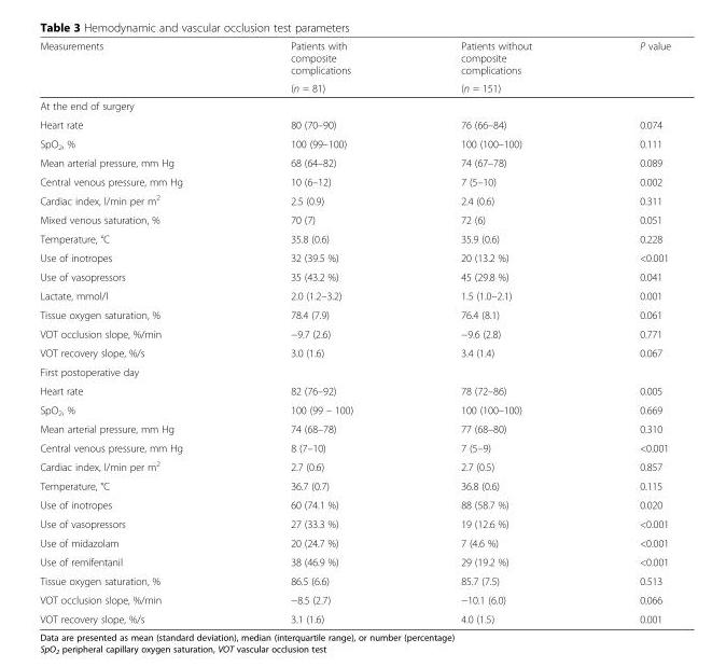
<table><thead><tr><td rowspan="2">Measurements</td><td rowspan="2">Patients with composite complications (n = 81)</td><td rowspan="2">Patients without composite complications (n = 151)</td><td rowspan="2">P value</td></tr><tr></tr></thead><tbody><tr><td colspan="4">At the end of surgery</td></tr><tr><td>Heart rate</td><td>80 (70–90)</td><td>76 (66–84)</td><td>0.074</td></tr><tr><td>SpO<sub>2</sub>, %</td><td>100 (99–100)</td><td>100 (100–100)</td><td>0.111</td></tr><tr><td>Mean arterial pressure, mm Hg</td><td>68 (64–82)</td><td>74 (67–78)</td><td>0.089</td></tr><tr><td>Central venous pressure, mm Hg</td><td>10 (6–12)</td><td>7 (5–10)</td><td>0.002</td></tr><tr><td>Cardiac index, l/min per m<sup>2</sup></td><td>2.5 (0.9)</td><td>2.4 (0.6)</td><td>0.311</td></tr><tr><td>Mixed venous saturation, %</td><td>70 (7)</td><td>72 (6)</td><td>0.051</td></tr><tr><td>Temperature, °C</td><td>35.8 (0.6)</td><td>35.9 (0.6)</td><td>0.228</td></tr><tr><td>Use of inotropes</td><td>32 (39.5 %)</td><td>20 (13.2 %)</td><td>&lt;0.001</td></tr><tr><td>Use of vasopressors</td><td>35 (43.2 %)</td><td>45 (29.8 %)</td><td>0.041</td></tr><tr><td>Lactate, mmol/l</td><td>2.0 (1.2–3.2)</td><td>1.5 (1.0–2.1)</td><td>0.001</td></tr><tr><td>Tissue oxygen saturation, %</td><td>78.4 (7.9)</td><td>76.4 (8.1)</td><td>0.061</td></tr><tr><td>VOT occlusion slope, %/min</td><td>−9.7 (2.6)</td><td>−9.6 (2.8)</td><td>0.771</td></tr><tr><td>VOT recovery slope, %/s</td><td>3.0 (1.6)</td><td>3.4 (1.4)</td><td>0.067</td></tr><tr><td colspan="4">First postoperative day</td></tr><tr><td>Heart rate</td><td>82 (76–92)</td><td>78 (72–86)</td><td>0.005</td></tr><tr><td>SpO<sub>2</sub>, %</td><td>100 (99 – 100)</td><td>100 (100–100)</td><td>0.669</td></tr><tr><td>Mean arterial pressure, mm Hg</td><td>74 (68–78)</td><td>77 (68–80)</td><td>0.310</td></tr><tr><td>Central venous pressure, mm Hg</td><td>8 (7–10)</td><td>7 (5–9)</td><td>&lt;0.001</td></tr><tr><td>Cardiac index, l/min per m<sup>2</sup></td><td>2.7 (0.6)</td><td>2.7 (0.5)</td><td>0.857</td></tr><tr><td>Temperature, °C</td><td>36.7 (0.7)</td><td>36.8 (0.6)</td><td>0.115</td></tr><tr><td>Use of inotropes</td><td>60 (74.1 %)</td><td>88 (58.7 %)</td><td>0.020</td></tr><tr><td>Use of vasopressors</td><td>27 (33.3 %)</td><td>19 (12.6 %)</td><td>&lt;0.001</td></tr><tr><td>Use of midazolam</td><td>20 (24.7 %)</td><td>7 (4.6 %)</td><td>&lt;0.001</td></tr><tr><td>Use of remifentanil</td><td>38 (46.9 %)</td><td>29 (19.2 %)</td><td>&lt;0.001</td></tr><tr><td>Tissue oxygen saturation, %</td><td>86.5 (6.6)</td><td>85.7 (7.5)</td><td>0.513</td></tr><tr><td>VOT occlusion slope, %/min</td><td>−8.5 (2.7)</td><td>−10.1 (6.0)</td><td>0.066</td></tr><tr><td>VOT recovery slope, %/s</td><td>3.1 (1.6)</td><td>4.0 (1.5)</td><td>0.001</td></tr></tbody></table>